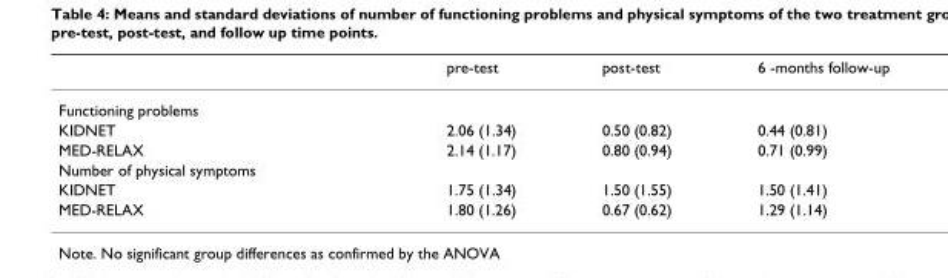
<table><thead><tr><td></td><td>pre-test</td><td>post-test</td><td>6 -months follow-up</td></tr></thead><tbody><tr><td colspan="4">Functioning problems</td></tr><tr><td>KIDNET</td><td>2.06 (1.34)</td><td>0.50 (0.82)</td><td>0.44 (0.81)</td></tr><tr><td>MED-RELAX</td><td>2.14 (1.17)</td><td>0.80 (0.94)</td><td>0.71 (0.99)</td></tr><tr><td colspan="4">Number of physical symptoms</td></tr><tr><td>KIDNET</td><td>1.75 (1.34)</td><td>1.50 (1.55)</td><td>1.50 (1.41)</td></tr><tr><td>MED-RELAX</td><td>1.80 (1.26)</td><td>0.67 (0.62)</td><td>1.29 (1.14)</td></tr></tbody></table>